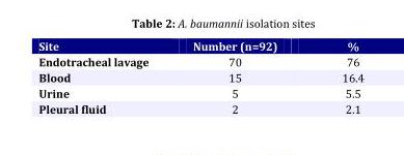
<table><tbody><tr><td>Site</td><td>Number (n=92)</td><td>%</td></tr><tr><td>Endotracheal lavage</td><td>70</td><td>76</td></tr><tr><td>Blood</td><td>15</td><td>16.4</td></tr><tr><td>Urine</td><td>5</td><td>5.5</td></tr><tr><td>Pleural fluid</td><td>2</td><td>2.1</td></tr></tbody></table>